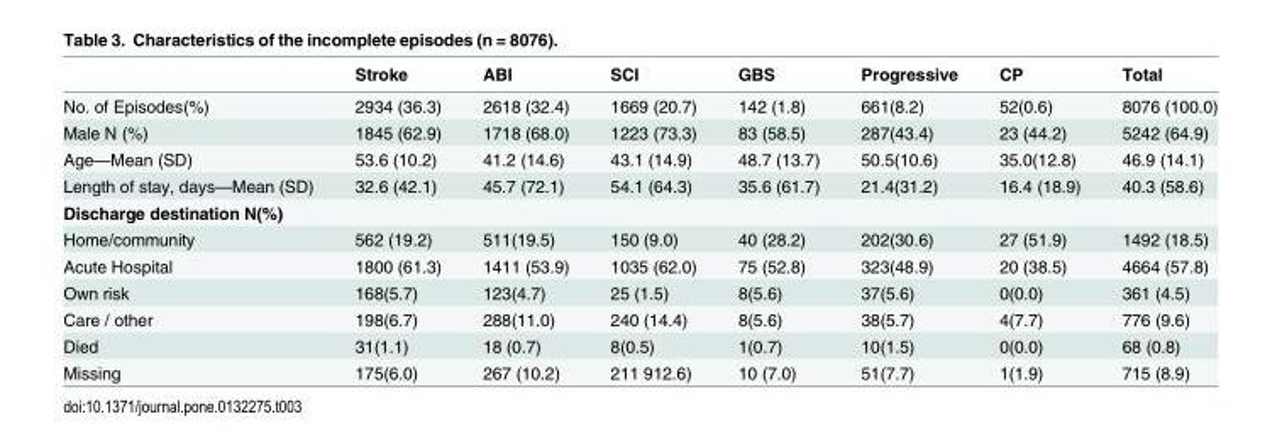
<table><thead><tr><td></td><td>Stroke</td><td>ABI</td><td>SCI</td><td>GBS</td><td>Progressive</td><td>CP</td><td>Total</td></tr></thead><tbody><tr><td>No. of Episodes(%)</td><td>2934 (36.3)</td><td>2618 (32.4)</td><td>1669 (20.7)</td><td>142 (1.8)</td><td>661(8.2)</td><td>52(0.6)</td><td>8076 (100.0)</td></tr><tr><td>Male N (%)</td><td>1845 (62.9)</td><td>1718 (68.0)</td><td>1223 (73.3)</td><td>83 (58.5)</td><td>287(43.4)</td><td>23 (44.2)</td><td>5242 (64.9)</td></tr><tr><td>Age—Mean (SD)</td><td>53.6 (10.2)</td><td>41.2 (14.6)</td><td>43.1 (14.9)</td><td>48.7 (13.7)</td><td>50.5(10.6)</td><td>35.0(12.8)</td><td>46.9 (14.1)</td></tr><tr><td>Length of stay, days—Mean (SD)</td><td>32.6 (42.1)</td><td>45.7 (72.1)</td><td>54.1 (64.3)</td><td>35.6 (61.7)</td><td>21.4(31.2)</td><td>16.4 (18.9)</td><td>40.3 (58.6)</td></tr><tr><td colspan="8">Discharge destination N(%)</td></tr><tr><td>Home/community</td><td>562 (19.2)</td><td>511(19.5)</td><td>150 (9.0)</td><td>40 (28.2)</td><td>202(30.6)</td><td>27 (51.9)</td><td>1492 (18.5)</td></tr><tr><td>Acute Hospital</td><td>1800 (61.3)</td><td>1411 (53.9)</td><td>1035 (62.0)</td><td>75 (52.8)</td><td>323(48.9)</td><td>20 (38.5)</td><td>4664 (57.8)</td></tr><tr><td>Own risk</td><td>168(5.7)</td><td>123(4.7)</td><td>25 (1.5)</td><td>8(5.6)</td><td>37(5.6)</td><td>0(0.0)</td><td>361 (4.5)</td></tr><tr><td>Care / other</td><td>198(6.7)</td><td>288(11.0)</td><td>240 (14.4)</td><td>8(5.6)</td><td>38(5.7)</td><td>4(7.7)</td><td>776 (9.6)</td></tr><tr><td>Died</td><td>31(1.1)</td><td>18 (0.7)</td><td>8(0.5)</td><td>1(0.7)</td><td>10(1.5)</td><td>0(0.0)</td><td>68 (0.8)</td></tr><tr><td>Missing</td><td>175(6.0)</td><td>267 (10.2)</td><td>211 912.6)</td><td>10 (7.0)</td><td>51(7.7)</td><td>1(1.9)</td><td>715 (8.9)</td></tr></tbody></table>